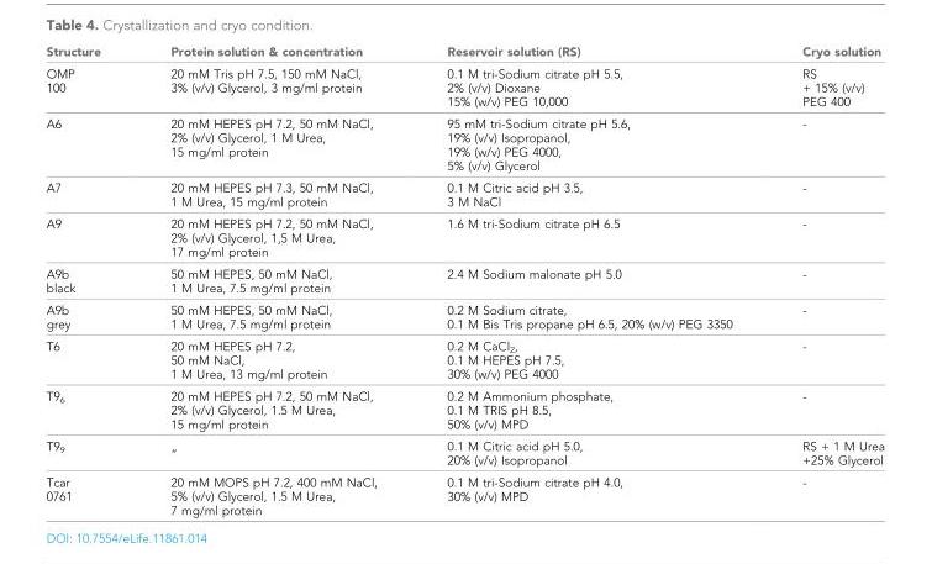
<table><thead><tr><td>Structure</td><td>Protein solution &amp; concentration</td><td>Reservoir solution (RS)</td><td>Cryo solution</td></tr></thead><tbody><tr><td>OMP 100</td><td>20 mM Tris pH 7.5, 150 mM NaCl, 3% (v/v) Glycerol, 3 mg/ml protein</td><td>0.1 M tri-Sodium citrate pH 5.5, 2% (v/v) Dioxane 15% (w/v) PEG 10,000</td><td>RS + 15% (v/v) PEG 400</td></tr><tr><td>A6</td><td>20 mM HEPES pH 7.2, 50 mM NaCl, 2% (v/v) Glycerol, 1 M Urea, 15 mg/ml protein</td><td>95 mM tri-Sodium citrate pH 5.6, 19% (v/v) Isopropanol, 19% (w/v) PEG 4000, 5% (v/v) Glycerol</td><td>-</td></tr><tr><td>A7</td><td>20 mM HEPES pH 7.3, 50 mM NaCl, 1 M Urea, 15 mg/ml protein</td><td>0.1 M Citric acid pH 3.5, 3 M NaCl</td><td>-</td></tr><tr><td>A9</td><td>20 mM HEPES pH 7.2, 50 mM NaCl, 2% (v/v) Glycerol, 1,5 M Urea, 17 mg/ml protein</td><td>1.6 M tri-Sodium citrate pH 6.5</td><td>-</td></tr><tr><td>A9b black</td><td>50 mM HEPES, 50 mM NaCl, 1 M Urea, 7.5 mg/ml protein</td><td>2.4 M Sodium malonate pH 5.0</td><td>-</td></tr><tr><td>A9b grey</td><td>50 mM HEPES, 50 mM NaCl, 1 M Urea, 7.5 mg/ml protein</td><td>0.2 M Sodium citrate, 0.1 M Bis Tris propane pH 6.5, 20% (w/v) PEG 3350</td><td>-</td></tr><tr><td>T6</td><td>20 mM HEPES pH 7.2, 50 mM NaCl, 1 M Urea, 13 mg/ml protein</td><td>0.2 M CaCl<sub>2</sub>, 0.1 M HEPES pH 7.5, 30% (w/v) PEG 4000</td><td>-</td></tr><tr><td>T9<sub>6</sub></td><td>20 mM HEPES pH 7.2, 50 mM NaCl, 2% (v/v) Glycerol, 1.5 M Urea, 15 mg/ml protein</td><td>0.2 M Ammonium phosphate, 0.1 M TRIS pH 8.5, 50% (v/v) MPD</td><td>-</td></tr><tr><td>T9<sub>9</sub></td><td>„</td><td>0.1 M Citric acid pH 5.0, 20% (v/v) Isopropanol</td><td>RS + 1 M Urea +25% Glycerol</td></tr><tr><td>Tcar 0761</td><td>20 mM MOPS pH 7.2, 400 mM NaCl, 5% (v/v) Glycerol, 1.5 M Urea, 7 mg/ml protein</td><td>0.1 M tri-Sodium citrate pH 4.0, 30% (v/v) MPD</td><td>-</td></tr></tbody></table>